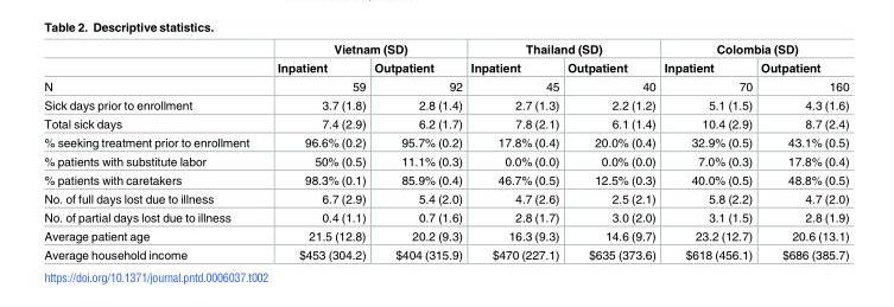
<table><thead><tr><td rowspan="2"></td><td colspan="2">Vietnam (SD)</td><td colspan="2">Thailand (SD)</td><td colspan="2">Colombia (SD)</td></tr><tr><td>Inpatient</td><td>Outpatient</td><td>Inpatient</td><td>Outpatient</td><td>Inpatient</td><td>Outpatient</td></tr></thead><tbody><tr><td>N</td><td>59</td><td>92</td><td>45</td><td>40</td><td>70</td><td>160</td></tr><tr><td>Sick days prior to enrollment</td><td>3.7 (1.8)</td><td>2.8 (1.4)</td><td>2.7 (1.3)</td><td>2.2 (1.2)</td><td>5.1 (1.5)</td><td>4.3 (1.6)</td></tr><tr><td>Total sick days</td><td>7.4 (2.9)</td><td>6.2 (1.7)</td><td>7.8 (2.1)</td><td>6.1 (1.4)</td><td>10.4 (2.9)</td><td>8.7 (2.4)</td></tr><tr><td>% seeking treatment prior to enrollment</td><td>96.6% (0.2)</td><td>95.7% (0.2)</td><td>17.8% (0.4)</td><td>20.0% (0.4)</td><td>32.9% (0.5)</td><td>43.1% (0.5)</td></tr><tr><td>% patients with substitute labor</td><td>50% (0.5)</td><td>11.1% (0.3)</td><td>0.0% (0.0)</td><td>0.0% (0.0)</td><td>7.0% (0.3)</td><td>17.8% (0.4)</td></tr><tr><td>% patients with caretakers</td><td>98.3% (0.1)</td><td>85.9% (0.4)</td><td>46.7% (0.5)</td><td>12.5% (0.3)</td><td>40.0% (0.5)</td><td>48.8% (0.5)</td></tr><tr><td>No. of full days lost due to illness</td><td>6.7 (2.9)</td><td>5.4 (2.0)</td><td>4.7 (2.6)</td><td>2.5 (2.1)</td><td>5.8 (2.2)</td><td>4.7 (2.0)</td></tr><tr><td>No. of partial days lost due to illness</td><td>0.4 (1.1)</td><td>0.7 (1.6)</td><td>2.8 (1.7)</td><td>3.0 (2.0)</td><td>3.1 (1.5)</td><td>2.8 (1.9)</td></tr><tr><td>Average patient age</td><td>21.5 (12.8)</td><td>20.2 (9.3)</td><td>16.3 (9.3)</td><td>14.6 (9.7)</td><td>23.2 (12.7)</td><td>20.6 (13.1)</td></tr><tr><td>Average household income</td><td>$453 (304.2)</td><td>$404 (315.9)</td><td>$470 (227.1)</td><td>$635 (373.6)</td><td>$618 (456.1)</td><td>$686 (385.7)</td></tr></tbody></table>